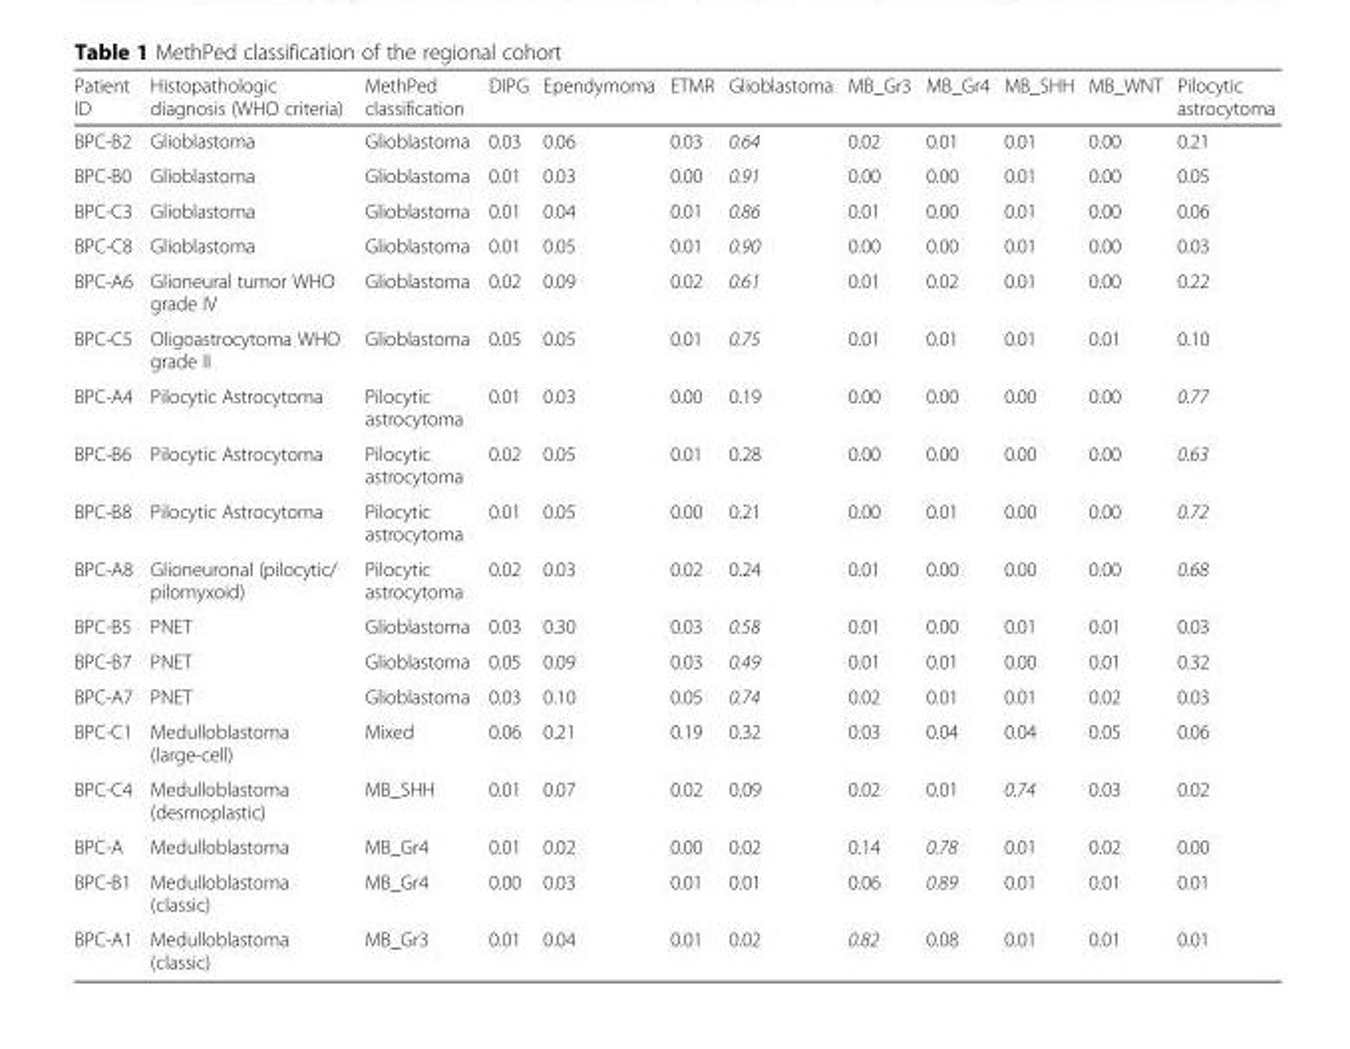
<table><thead><tr><td>Patient ID</td><td>Histopathologic diagnosis (WHO criteria)</td><td>MethPed classification</td><td>DIPG</td><td>Ependymoma</td><td>ETMR</td><td>Glioblastoma</td><td>MB_Gr3</td><td>MB_Gr4</td><td>MB_SHH</td><td>MB_WNT</td><td>Pilocytic astrocytoma</td></tr></thead><tbody><tr><td>BPC-B2</td><td>Glioblastoma</td><td>Glioblastoma</td><td>0.03</td><td>0.06</td><td>0.03</td><td>0.64</td><td>0.02</td><td>0.01</td><td>0.01</td><td>0.00</td><td>0.21</td></tr><tr><td>BPC-B0</td><td>Glioblastoma</td><td>Glioblastoma</td><td>0.01</td><td>0.03</td><td>0.00</td><td>0.91</td><td>0.00</td><td>0.00</td><td>0.01</td><td>0.00</td><td>0.05</td></tr><tr><td>BPC-C3</td><td>Glioblastoma</td><td>Glioblastoma</td><td>0.01</td><td>0.04</td><td>0.01</td><td>0.86</td><td>0.01</td><td>0.00</td><td>0.01</td><td>0.00</td><td>0.06</td></tr><tr><td>BPC-C8</td><td>Glioblastoma</td><td>Glioblastoma</td><td>0.01</td><td>0.05</td><td>0.01</td><td>0.90</td><td>0.00</td><td>0.00</td><td>0.01</td><td>0.00</td><td>0.03</td></tr><tr><td>BPC-A6</td><td>Glioneural tumor WHO grade IV</td><td>Glioblastoma</td><td>0.02</td><td>0.09</td><td>0.02</td><td>0.61</td><td>0.01</td><td>0.02</td><td>0.01</td><td>0.00</td><td>0.22</td></tr><tr><td>BPC-C5</td><td>Oligoastrocytoma WHO grade II</td><td>Glioblastoma</td><td>0.05</td><td>0.05</td><td>0.01</td><td>0.75</td><td>0.01</td><td>0.01</td><td>0.01</td><td>0.01</td><td>0.10</td></tr><tr><td>BPC-A4</td><td>Pilocytic Astrocytoma</td><td>Pilocytic astrocytoma</td><td>0.01</td><td>0.03</td><td>0.00</td><td>0.19</td><td>0.00</td><td>0.00</td><td>0.00</td><td>0.00</td><td>0.77</td></tr><tr><td>BPC-B6</td><td>Pilocytic Astrocytoma</td><td>Pilocytic astrocytoma</td><td>0.02</td><td>0.05</td><td>0.01</td><td>0.28</td><td>0.00</td><td>0.00</td><td>0.00</td><td>0.00</td><td>0.63</td></tr><tr><td>BPC-B8</td><td>Pilocytic Astrocytoma</td><td>Pilocytic astrocytoma</td><td>0.01</td><td>0.05</td><td>0.00</td><td>0.21</td><td>0.00</td><td>0.01</td><td>0.00</td><td>0.00</td><td>0.72</td></tr><tr><td>BPC-A8</td><td>Glioneuronal (pilocytic/ pilomyxoid)</td><td>Pilocytic astrocytoma</td><td>0.02</td><td>0.03</td><td>0.02</td><td>0.24</td><td>0.01</td><td>0.00</td><td>0.00</td><td>0.00</td><td>0.68</td></tr><tr><td>BPC-B5</td><td>PNET</td><td>Glioblastoma</td><td>0.03</td><td>0.30</td><td>0.03</td><td>0.58</td><td>0.01</td><td>0.00</td><td>0.01</td><td>0.01</td><td>0.03</td></tr><tr><td>BPC-B7</td><td>PNET</td><td>Glioblastoma</td><td>0.05</td><td>0.09</td><td>0.03</td><td>0.49</td><td>0.01</td><td>0.01</td><td>0.00</td><td>0.01</td><td>0.32</td></tr><tr><td>BPC-A7</td><td>PNET</td><td>Glioblastoma</td><td>0.03</td><td>0.10</td><td>0.05</td><td>0.74</td><td>0.02</td><td>0.01</td><td>0.01</td><td>0.02</td><td>0.03</td></tr><tr><td>BPC-C1</td><td>Medulloblastoma (large-cell)</td><td>Mixed</td><td>0.06</td><td>0.21</td><td>0.19</td><td>0.32</td><td>0.03</td><td>0.04</td><td>0.04</td><td>0.05</td><td>0.06</td></tr><tr><td>BPC-C4</td><td>Medulloblastoma (desmoplastic)</td><td>MB_SHH</td><td>0.01</td><td>0.07</td><td>0.02</td><td>0.09</td><td>0.02</td><td>0.01</td><td>0.74</td><td>0.03</td><td>0.02</td></tr><tr><td>BPC-A</td><td>Medulloblastoma</td><td>MB_Gr4</td><td>0.01</td><td>0.02</td><td>0.00</td><td>0.02</td><td>0.14</td><td>0.78</td><td>0.01</td><td>0.02</td><td>0.00</td></tr><tr><td>BPC-B1</td><td>Medulloblastoma (classic)</td><td>MB_Gr4</td><td>0.00</td><td>0.03</td><td>0.01</td><td>0.01</td><td>0.06</td><td>0.89</td><td>0.01</td><td>0.01</td><td>0.01</td></tr><tr><td>BPC-A1</td><td>Medulloblastoma (classic)</td><td>MB_Gr3</td><td>0.01</td><td>0.04</td><td>0.01</td><td>0.02</td><td>0.82</td><td>0.08</td><td>0.01</td><td>0.01</td><td>0.01</td></tr></tbody></table>